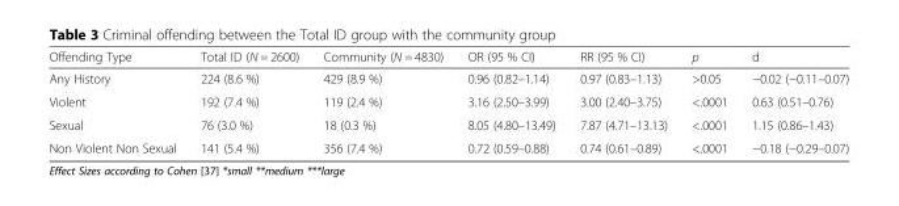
<table><thead><tr><td>Offending Type</td><td>Total ID (N = 2600)</td><td>Community (N = 4830)</td><td>OR (95 % CI)</td><td>RR (95 % CI)</td><td>p</td><td>d</td></tr></thead><tbody><tr><td>Any History</td><td>224 (8.6 %)</td><td>429 (8.9 %)</td><td>0.96 (0.82–1.14)</td><td>0.97 (0.83–1.13)</td><td>&gt;0.05</td><td>−0.02 (−0.11–0.07)</td></tr><tr><td>Violent</td><td>192 (7.4 %)</td><td>119 (2.4 %)</td><td>3.16 (2.50–3.99)</td><td>3.00 (2.40–3.75)</td><td>&lt;.0001</td><td>0.63 (0.51–0.76)</td></tr><tr><td>Sexual</td><td>76 (3.0 %)</td><td>18 (0.3 %)</td><td>8.05 (4.80–13.49)</td><td>7.87 (4.71–13.13)</td><td>&lt;.0001</td><td>1.15 (0.86–1.43)</td></tr><tr><td>Non Violent Non Sexual</td><td>141 (5.4 %)</td><td>356 (7.4 %)</td><td>0.72 (0.59–0.88)</td><td>0.74 (0.61–0.89)</td><td>&lt;.0001</td><td>−0.18 (−0.29–0.07)</td></tr></tbody></table>